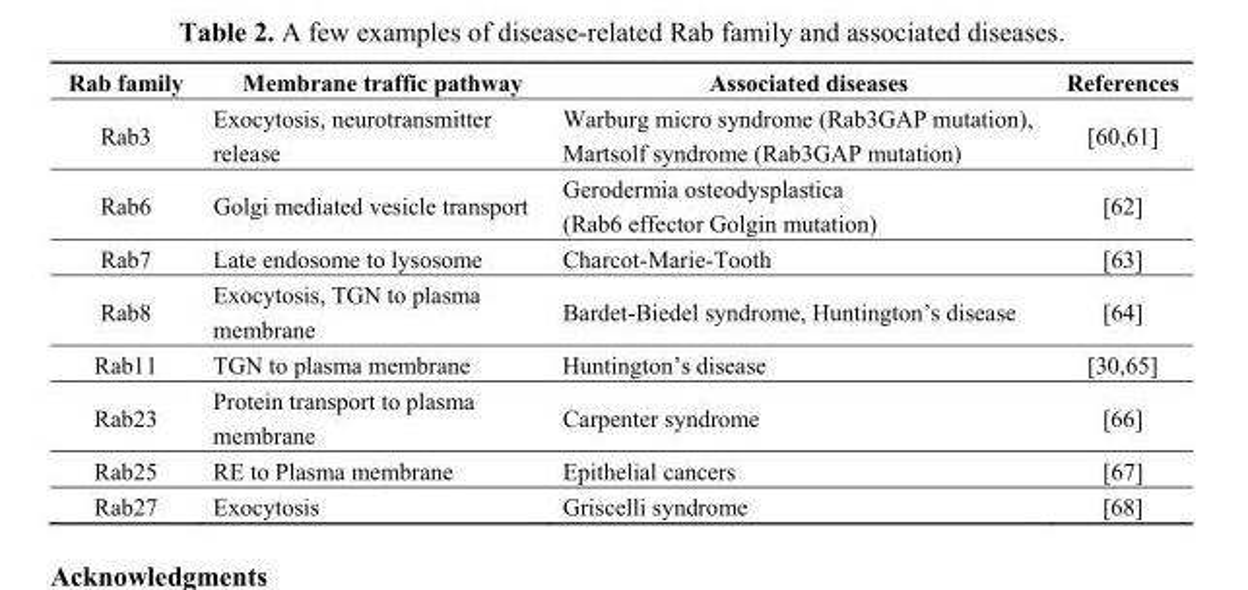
<table><thead><tr><td>Rab family</td><td>Membrane traffic pathway</td><td>Associated diseases</td><td>References</td></tr></thead><tbody><tr><td>Rab3</td><td>Exocytosis, neurotransmitter release</td><td>Warburg micro syndrome (Rab3GAP mutation), Martsolf syndrome (Rab3GAP mutation)</td><td>[60,61]</td></tr><tr><td>Rab6</td><td>Golgi mediated vesicle transport</td><td>Gerodermia osteodysplastica (Rab6 effector Golgin mutation)</td><td>[62]</td></tr><tr><td>Rab7</td><td>Late endosome to lysosome</td><td>Charcot-Marie-Tooth</td><td>[63]</td></tr><tr><td>Rab8</td><td>Exocytosis, TGN to plasma membrane</td><td>Bardet-Biedel syndrome, Huntington’s disease</td><td>[64]</td></tr><tr><td>Rab11</td><td>TGN to plasma membrane</td><td>Huntington’s disease</td><td>[30,65]</td></tr><tr><td>Rab23</td><td>Protein transport to plasma membrane</td><td>Carpenter syndrome</td><td>[66]</td></tr><tr><td>Rab25</td><td>RE to Plasma membrane</td><td>Epithelial cancers</td><td>[67]</td></tr><tr><td>Rab27</td><td>Exocytosis</td><td>Griscelli syndrome</td><td>[68]</td></tr></tbody></table>